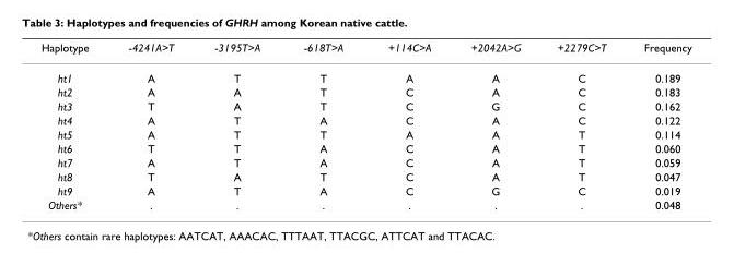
<table><thead><tr><td>Haplotype</td><td>-4241A&gt;T</td><td>-3195T&gt;A</td><td>-618T&gt;A</td><td>+114C&gt;A</td><td>+2042A&gt;G</td><td>+2279C&gt;T</td><td>Frequency</td></tr></thead><tbody><tr><td>ht1</td><td>A</td><td>T</td><td>T</td><td>A</td><td>A</td><td>C</td><td>0.189</td></tr><tr><td>ht2</td><td>A</td><td>A</td><td>T</td><td>C</td><td>A</td><td>C</td><td>0.183</td></tr><tr><td>ht3</td><td>T</td><td>A</td><td>T</td><td>C</td><td>G</td><td>C</td><td>0.162</td></tr><tr><td>ht4</td><td>A</td><td>T</td><td>A</td><td>C</td><td>A</td><td>C</td><td>0.122</td></tr><tr><td>ht5</td><td>A</td><td>T</td><td>T</td><td>A</td><td>A</td><td>T</td><td>0.114</td></tr><tr><td>ht6</td><td>T</td><td>T</td><td>A</td><td>C</td><td>A</td><td>T</td><td>0.060</td></tr><tr><td>ht7</td><td>A</td><td>T</td><td>A</td><td>C</td><td>A</td><td>T</td><td>0.059</td></tr><tr><td>ht8</td><td>T</td><td>A</td><td>T</td><td>C</td><td>A</td><td>T</td><td>0.047</td></tr><tr><td>ht9</td><td>A</td><td>T</td><td>A</td><td>C</td><td>G</td><td>C</td><td>0.019</td></tr><tr><td>Others*</td><td>.</td><td>.</td><td>.</td><td>.</td><td>.</td><td>.</td><td>0.048</td></tr></tbody></table>